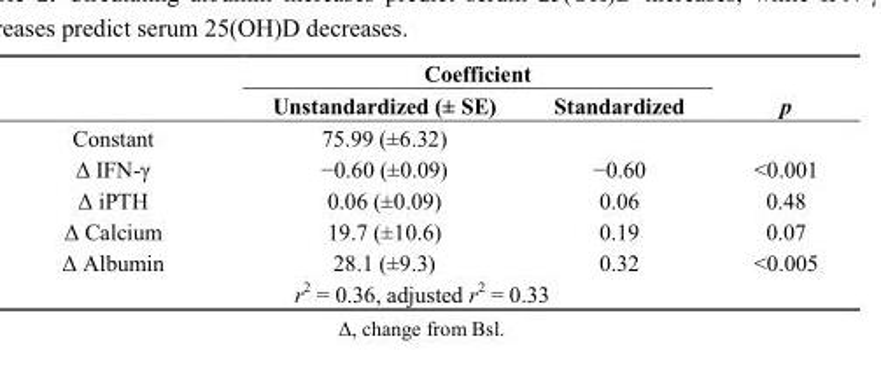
<table><thead><tr><td rowspan="2"></td><td colspan="2">Coefficient</td><td rowspan="2">p</td></tr><tr><td>Unstandardized (± SE)</td><td>Standardized</td></tr></thead><tbody><tr><td>Constant</td><td>75.99 (±6.32)</td><td></td><td></td></tr><tr><td>Δ IFN-γ</td><td>−0.60 (±0.09)</td><td>−0.60</td><td>&lt;0.001</td></tr><tr><td>Δ iPTH</td><td>0.06 (±0.09)</td><td>0.06</td><td>0.48</td></tr><tr><td>Δ Calcium</td><td>19.7 (±10.6)</td><td>0.19</td><td>0.07</td></tr><tr><td>Δ Albumin</td><td>28.1 (±9.3)</td><td>0.32</td><td>&lt;0.005</td></tr><tr><td colspan="4">r<sup>2</sup> = 0.36, adjusted r<sup>2</sup> = 0.33</td></tr></tbody></table>